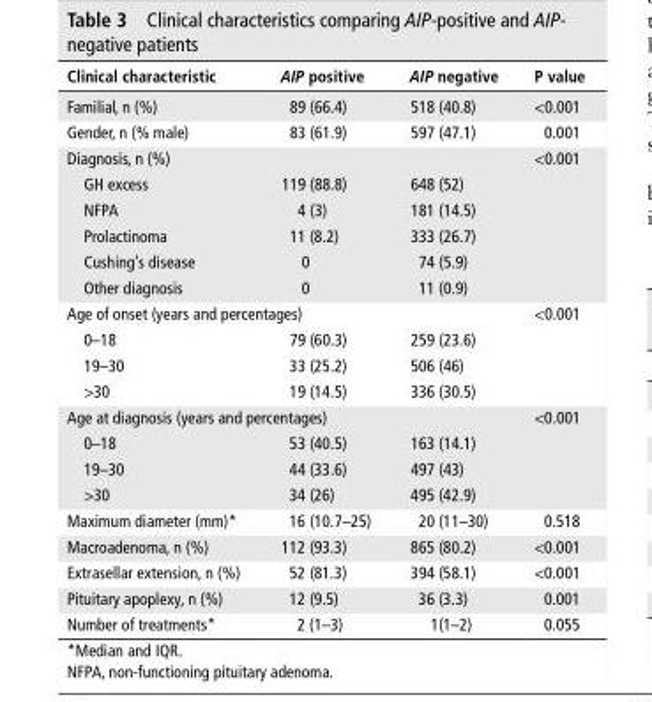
<table><thead><tr><td>Clinical characteristic</td><td>AIP positive</td><td>AIP negative</td><td>P value</td></tr></thead><tbody><tr><td>Familial, n (%)</td><td>89 (66.4)</td><td>518 (40.8)</td><td>&lt;0.001</td></tr><tr><td>Gender, n (% male)</td><td>83 (61.9)</td><td>597 (47.1)</td><td>0.001</td></tr><tr><td colspan="3">Diagnosis, n (%)</td><td rowspan="6">&lt;0.001</td></tr><tr><td>GH excess</td><td>119 (88.8)</td><td>648 (52)</td></tr><tr><td>NFPA</td><td>4 (3)</td><td>181 (14.5)</td></tr><tr><td>Prolactinoma</td><td>11 (8.2)</td><td>333 (26.7)</td></tr><tr><td>Cushing’s disease</td><td>0</td><td>74 (5.9)</td></tr><tr><td>Other diagnosis</td><td>0</td><td>11 (0.9)</td></tr><tr><td colspan="3">Age of onset (years and percentages)</td><td rowspan="4">&lt;0.001</td></tr><tr><td>0–18</td><td>79 (60.3)</td><td>259 (23.6)</td></tr><tr><td>19–30</td><td>33 (25.2)</td><td>506 (46)</td></tr><tr><td>&gt;30</td><td>19 (14.5)</td><td>336 (30.5)</td></tr><tr><td colspan="3">Age at diagnosis (years and percentages)</td><td rowspan="4">&lt;0.001</td></tr><tr><td>0–18</td><td>53 (40.5)</td><td>163 (14.1)</td></tr><tr><td>19–30</td><td>44 (33.6)</td><td>497 (43)</td></tr><tr><td>&gt;30</td><td>34 (26)</td><td>495 (42.9)</td></tr><tr><td>Maximum diameter (mm)*</td><td>16 (10.7–25)</td><td>20 (11–30)</td><td>0.518</td></tr><tr><td>Macroadenoma, n (%)</td><td>112 (93.3)</td><td>865 (80.2)</td><td>&lt;0.001</td></tr><tr><td>Extrasellar extension, n (%)</td><td>52 (81.3)</td><td>394 (58.1)</td><td>&lt;0.001</td></tr><tr><td>Pituitary apoplexy, n (%)</td><td>12 (9.5)</td><td>36 (3.3)</td><td>0.001</td></tr><tr><td>Number of treatments*</td><td>2 (1–3)</td><td>1(1–2)</td><td>0.055</td></tr></tbody></table>